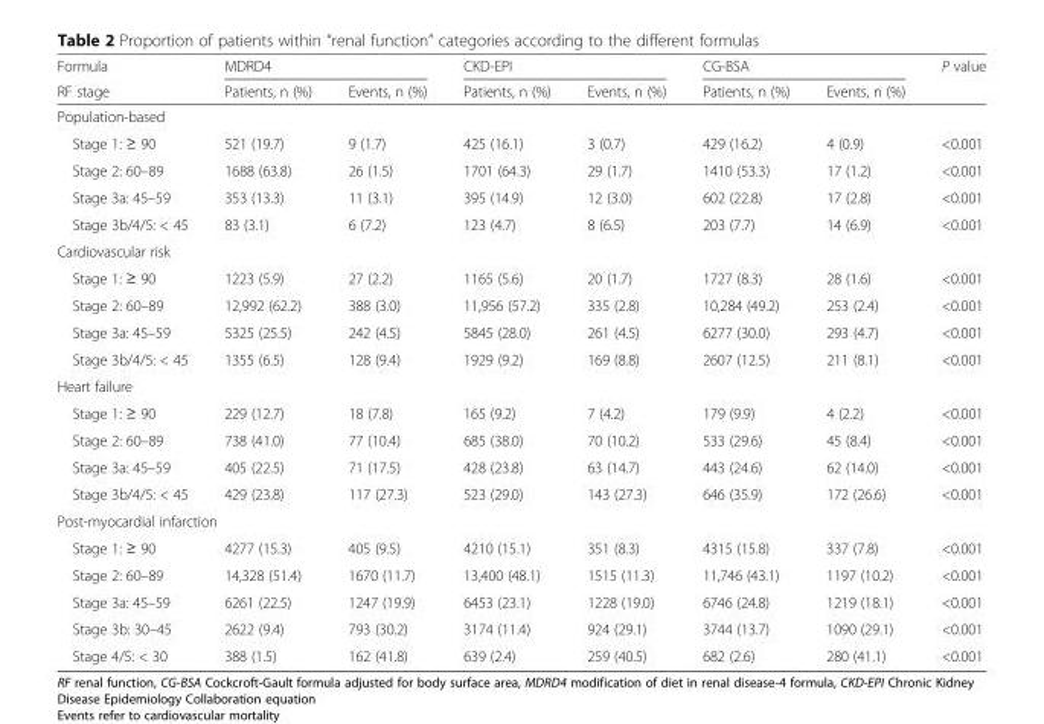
<table><thead><tr><td rowspan="2">Formula RF stage</td><td colspan="2">MDRD4</td><td colspan="2">CKD-EPI</td><td colspan="2">CG-BSA</td><td rowspan="2">P value</td></tr><tr><td>Patients, n (%)</td><td>Events, n (%)</td><td>Patients, n (%)</td><td>Events, n (%)</td><td>Patients, n (%)</td><td>Events, n (%)</td></tr></thead><tbody><tr><td colspan="8">Population-based</td></tr><tr><td>Stage 1: ≥ 90</td><td>521 (19.7)</td><td>9 (1.7)</td><td>425 (16.1)</td><td>3 (0.7)</td><td>429 (16.2)</td><td>4 (0.9)</td><td>&lt;0.001</td></tr><tr><td>Stage 2: 60–89</td><td>1688 (63.8)</td><td>26 (1.5)</td><td>1701 (64.3)</td><td>29 (1.7)</td><td>1410 (53.3)</td><td>17 (1.2)</td><td>&lt;0.001</td></tr><tr><td>Stage 3a: 45–59</td><td>353 (13.3)</td><td>11 (3.1)</td><td>395 (14.9)</td><td>12 (3.0)</td><td>602 (22.8)</td><td>17 (2.8)</td><td>&lt;0.001</td></tr><tr><td>Stage 3b/4/5: &lt; 45</td><td>83 (3.1)</td><td>6 (7.2)</td><td>123 (4.7)</td><td>8 (6.5)</td><td>203 (7.7)</td><td>14 (6.9)</td><td>&lt;0.001</td></tr><tr><td colspan="8">Cardiovascular risk</td></tr><tr><td>Stage 1: ≥ 90</td><td>1223 (5.9)</td><td>27 (2.2)</td><td>1165 (5.6)</td><td>20 (1.7)</td><td>1727 (8.3)</td><td>28 (1.6)</td><td>&lt;0.001</td></tr><tr><td>Stage 2: 60–89</td><td>12,992 (62.2)</td><td>388 (3.0)</td><td>11,956 (57.2)</td><td>335 (2.8)</td><td>10,284 (49.2)</td><td>253 (2.4)</td><td>&lt;0.001</td></tr><tr><td>Stage 3a: 45–59</td><td>5325 (25.5)</td><td>242 (4.5)</td><td>5845 (28.0)</td><td>261 (4.5)</td><td>6277 (30.0)</td><td>293 (4.7)</td><td>&lt;0.001</td></tr><tr><td>Stage 3b/4/5: &lt; 45</td><td>1355 (6.5)</td><td>128 (9.4)</td><td>1929 (9.2)</td><td>169 (8.8)</td><td>2607 (12.5)</td><td>211 (8.1)</td><td>&lt;0.001</td></tr><tr><td colspan="8">Heart failure</td></tr><tr><td>Stage 1: ≥ 90</td><td>229 (12.7)</td><td>18 (7.8)</td><td>165 (9.2)</td><td>7 (4.2)</td><td>179 (9.9)</td><td>4 (2.2)</td><td>&lt;0.001</td></tr><tr><td>Stage 2: 60–89</td><td>738 (41.0)</td><td>77 (10.4)</td><td>685 (38.0)</td><td>70 (10.2)</td><td>533 (29.6)</td><td>45 (8.4)</td><td>&lt;0.001</td></tr><tr><td>Stage 3a: 45–59</td><td>405 (22.5)</td><td>71 (17.5)</td><td>428 (23.8)</td><td>63 (14.7)</td><td>443 (24.6)</td><td>62 (14.0)</td><td>&lt;0.001</td></tr><tr><td>Stage 3b/4/5: &lt; 45</td><td>429 (23.8)</td><td>117 (27.3)</td><td>523 (29.0)</td><td>143 (27.3)</td><td>646 (35.9)</td><td>172 (26.6)</td><td>&lt;0.001</td></tr><tr><td colspan="8">Post-myocardial infarction</td></tr><tr><td>Stage 1: ≥ 90</td><td>4277 (15.3)</td><td>405 (9.5)</td><td>4210 (15.1)</td><td>351 (8.3)</td><td>4315 (15.8)</td><td>337 (7.8)</td><td>&lt;0.001</td></tr><tr><td>Stage 2: 60–89</td><td>14,328 (51.4)</td><td>1670 (11.7)</td><td>13,400 (48.1)</td><td>1515 (11.3)</td><td>11,746 (43.1)</td><td>1197 (10.2)</td><td>&lt;0.001</td></tr><tr><td>Stage 3a: 45–59</td><td>6261 (22.5)</td><td>1247 (19.9)</td><td>6453 (23.1)</td><td>1228 (19.0)</td><td>6746 (24.8)</td><td>1219 (18.1)</td><td>&lt;0.001</td></tr><tr><td>Stage 3b: 30–45</td><td>2622 (9.4)</td><td>793 (30.2)</td><td>3174 (11.4)</td><td>924 (29.1)</td><td>3744 (13.7)</td><td>1090 (29.1)</td><td>&lt;0.001</td></tr><tr><td>Stage 4/5: &lt; 30</td><td>388 (1.5)</td><td>162 (41.8)</td><td>639 (2.4)</td><td>259 (40.5)</td><td>682 (2.6)</td><td>280 (41.1)</td><td>&lt;0.001</td></tr></tbody></table>